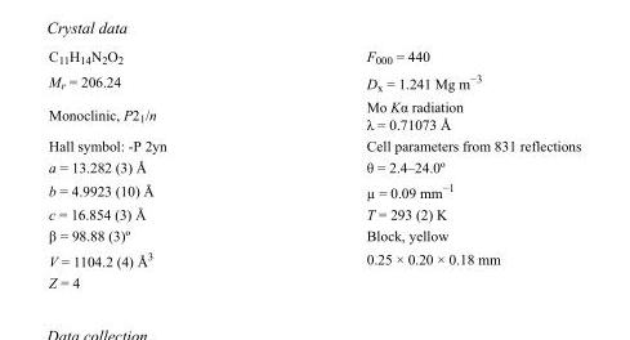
<table><tbody><tr><td>C<sub>11</sub>H<sub>14</sub>N<sub>2</sub>O<sub>2</sub></td><td>F<sub>000</sub> = 440</td></tr><tr><td>M<sub>r</sub> = 206.24</td><td>D<sub>x</sub> = 1.241 Mg m<sup>−3</sup></td></tr><tr><td>Monoclinic, P2<sub>1</sub>/n</td><td>Mo Kα radiation λ = 0.71073 Å</td></tr><tr><td>Hall symbol: -P 2yn</td><td>Cell parameters from 831 reflections</td></tr><tr><td>a = 13.282 (3) Å</td><td>θ = 2.4–24.0º</td></tr><tr><td>b = 4.9923 (10) Å</td><td>µ = 0.09 mm<sup>−1</sup></td></tr><tr><td>c = 16.854 (3) Å</td><td>T = 293 (2) K</td></tr><tr><td>β = 98.88 (3)º</td><td>Block, yellow</td></tr><tr><td>V = 1104.2 (4) Å<sup>3</sup></td><td>0.25 × 0.20 × 0.18 mm</td></tr><tr><td>Z = 4</td><td></td></tr></tbody></table>